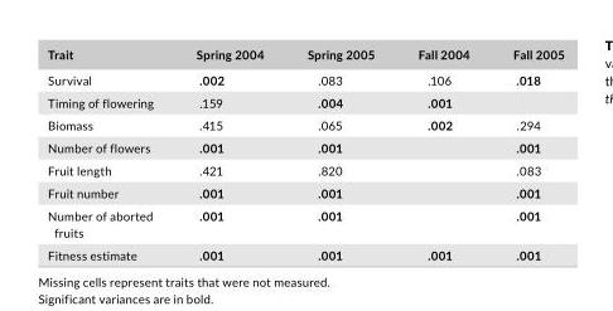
<table><thead><tr><td>Trait</td><td>Spring 2004</td><td>Spring 2005</td><td>Fall 2004</td><td>Fall 2005</td></tr></thead><tbody><tr><td>Survival</td><td>.002</td><td>.083</td><td>.106</td><td>.018</td></tr><tr><td>Timing of flowering</td><td>.159</td><td>.004</td><td>.001</td><td></td></tr><tr><td>Biomass</td><td>.415</td><td>.065</td><td>.002</td><td>.294</td></tr><tr><td>Number of flowers</td><td>.001</td><td>.001</td><td></td><td>.001</td></tr><tr><td>Fruit length</td><td>.421</td><td>.820</td><td></td><td>.083</td></tr><tr><td>Fruit number</td><td>.001</td><td>.001</td><td></td><td>.001</td></tr><tr><td>Number of aborted fruits</td><td>.001</td><td>.001</td><td></td><td>.001</td></tr><tr><td>Fitness estimate</td><td>.001</td><td>.001</td><td>.001</td><td>.001</td></tr></tbody></table>